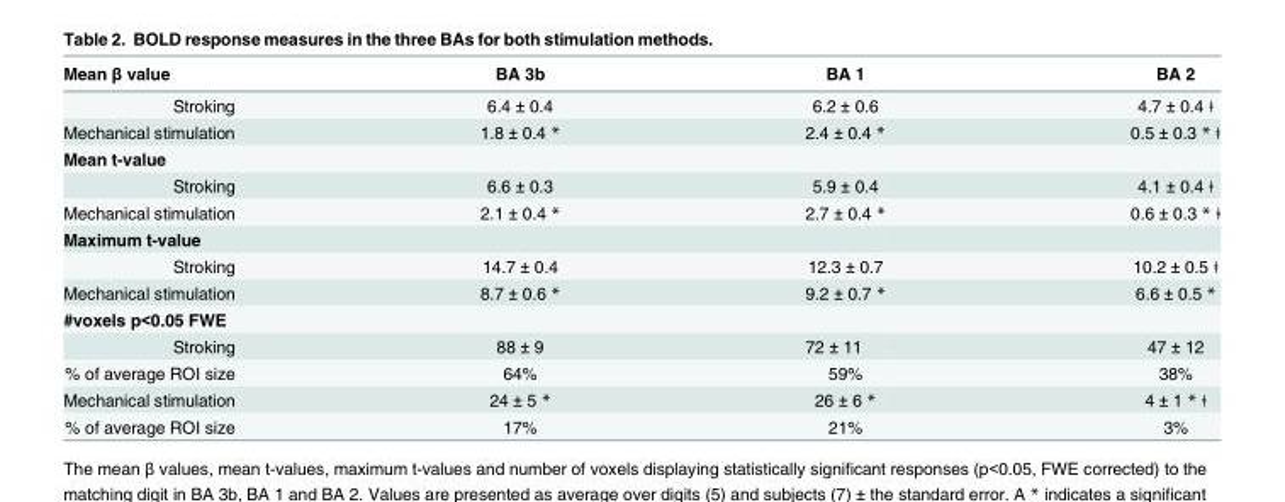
<table><thead><tr><td>Mean β value</td><td>BA 3b</td><td>BA 1</td><td>BA 2</td></tr></thead><tbody><tr><td>Stroking</td><td>6.4 ± 0.4</td><td>6.2 ± 0.6</td><td>4.7 ± 0.4 ⱡ</td></tr><tr><td>Mechanical stimulation</td><td>1.8 ± 0.4 *</td><td>2.4 ± 0.4 *</td><td>0.5 ± 0.3 * ⱡ</td></tr><tr><td colspan="4">Mean t-value</td></tr><tr><td>Stroking</td><td>6.6 ± 0.3</td><td>5.9 ± 0.4</td><td>4.1 ± 0.4 ⱡ</td></tr><tr><td>Mechanical stimulation</td><td>2.1 ± 0.4 *</td><td>2.7 ± 0.4 *</td><td>0.6 ± 0.3 * ⱡ</td></tr><tr><td colspan="4">Maximum t-value</td></tr><tr><td>Stroking</td><td>14.7 ± 0.4</td><td>12.3 ± 0.7</td><td>10.2 ± 0.5 ⱡ</td></tr><tr><td>Mechanical stimulation</td><td>8.7 ± 0.6 *</td><td>9.2 ± 0.7 *</td><td>6.6 ± 0.5 *</td></tr><tr><td colspan="4">#voxels p&lt;0.05 FWE</td></tr><tr><td>Stroking</td><td>88 ± 9</td><td>72 ± 11</td><td>47 ± 12</td></tr><tr><td>% of average ROI size</td><td>64%</td><td>59%</td><td>38%</td></tr><tr><td>Mechanical stimulation</td><td>24 ± 5 *</td><td>26 ± 6 *</td><td>4 ± 1 * ⱡ</td></tr><tr><td>% of average ROI size</td><td>17%</td><td>21%</td><td>3%</td></tr></tbody></table>